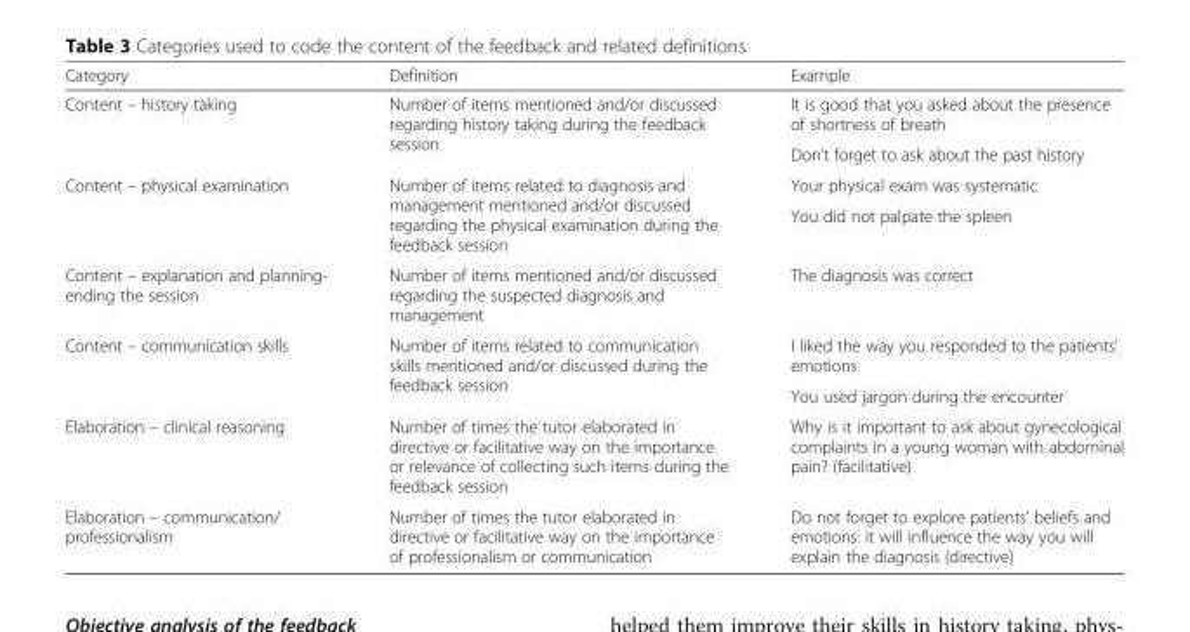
<table><thead><tr><td>Category</td><td>Definition</td><td>Example</td></tr></thead><tbody><tr><td rowspan="2">Content – history taking</td><td rowspan="2">Number of items mentioned and/or discussed regarding history taking during the feedback session</td><td>It is good that you asked about the presence of shortness of breath</td></tr><tr><td>Don’t forget to ask about the past history</td></tr><tr><td rowspan="2">Content – physical examination</td><td rowspan="2">Number of items related to diagnosis and management mentioned and/or discussed regarding the physical examination during the feedback session</td><td>Your physical exam was systematic</td></tr><tr><td>You did not palpate the spleen</td></tr><tr><td>Content – explanation and planning- ending the session</td><td>Number of items mentioned and/or discussed regarding the suspected diagnosis and management</td><td>The diagnosis was correct</td></tr><tr><td rowspan="2">Content – communication skills</td><td rowspan="2">Number of items related to communication skills mentioned and/or discussed during the feedback session</td><td>I liked the way you responded to the patients’ emotions</td></tr><tr><td>You used jargon during the encounter</td></tr><tr><td>Elaboration – clinical reasoning</td><td>Number of times the tutor elaborated in directive or facilitative way on the importance or relevance of collecting such items during the feedback session</td><td>Why is it important to ask about gynecological complaints in a young woman with abdominal pain? (facilitative)</td></tr><tr><td>Elaboration – communication/ professionalism</td><td>Number of times the tutor elaborated in directive or facilitative way on the importance of professionalism or communication</td><td>Do not forget to explore patients’ beliefs and emotions: it will influence the way you will explain the diagnosis (directive)</td></tr></tbody></table>